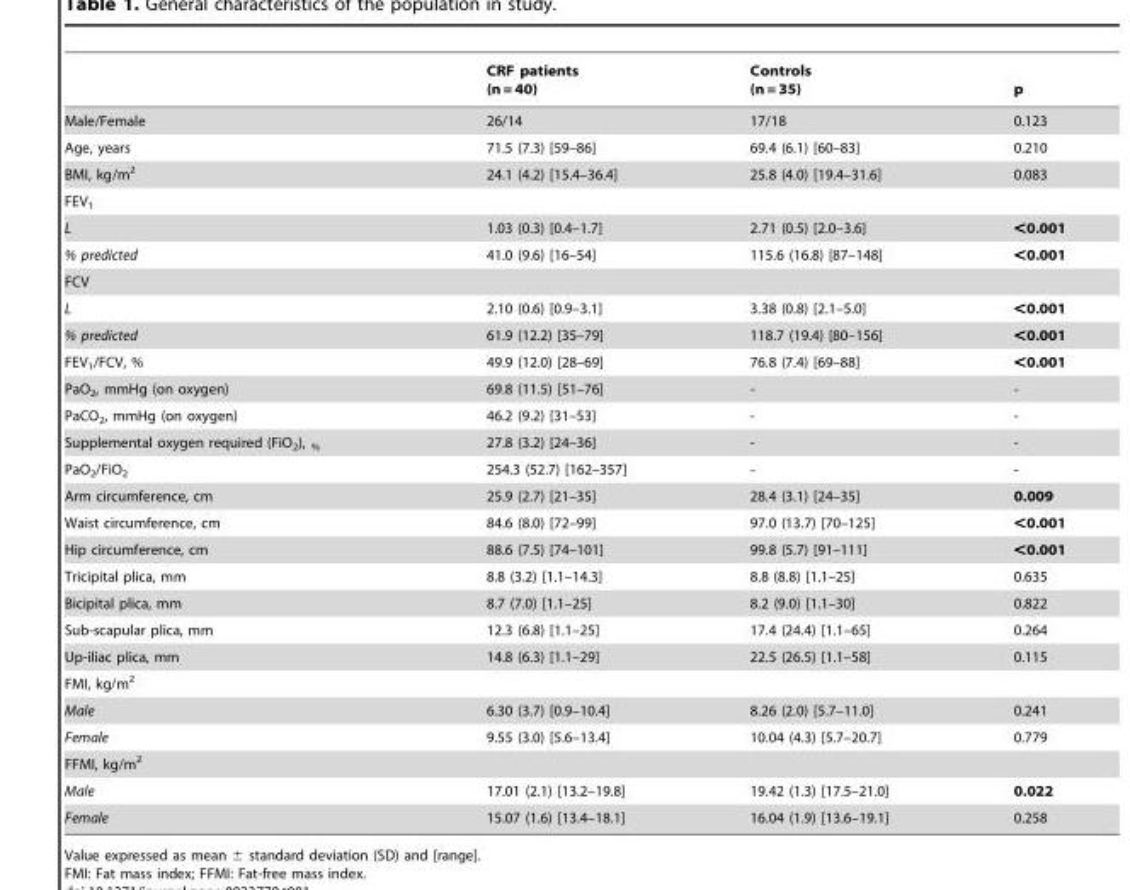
<table><thead><tr><td></td><td>CRF patients (n = 40)</td><td>Controls (n = 35)</td><td>p</td></tr></thead><tbody><tr><td>Male/Female</td><td>26/14</td><td>17/18</td><td>0.123</td></tr><tr><td>Age, years</td><td>71.5 (7.3) [59–86]</td><td>69.4 (6.1) [60–83]</td><td>0.210</td></tr><tr><td>BMI, kg/m<sup>2</sup></td><td>24.1 (4.2) [15.4–36.4]</td><td>25.8 (4.0) [19.4–31.6]</td><td>0.083</td></tr><tr><td colspan="4">FEV<sub>1</sub></td></tr><tr><td>L</td><td>1.03 (0.3) [0.4–1.7]</td><td>2.71 (0.5) [2.0–3.6]</td><td>&lt;0.001</td></tr><tr><td>% predicted</td><td>41.0 (9.6) [16–54]</td><td>115.6 (16.8) [87–148]</td><td>&lt;0.001</td></tr><tr><td colspan="4">FCV</td></tr><tr><td>L</td><td>2.10 (0.6) [0.9–3.1]</td><td>3.38 (0.8) [2.1–5.0]</td><td>&lt;0.001</td></tr><tr><td>% predicted</td><td>61.9 (12.2) [35–79]</td><td>118.7 (19.4) [80–156]</td><td>&lt;0.001</td></tr><tr><td>FEV<sub>1</sub>/FCV, %</td><td>49.9 (12.0) [28–69]</td><td>76.8 (7.4) [69–88]</td><td>&lt;0.001</td></tr><tr><td>PaO<sub>2</sub>, mmHg (on oxygen)</td><td>69.8 (11.5) [51–76]</td><td>-</td><td>-</td></tr><tr><td>PaCO<sub>2</sub>, mmHg (on oxygen)</td><td>46.2 (9.2) [31–53]</td><td>-</td><td>-</td></tr><tr><td>Supplemental oxygen required (FiO<sub>2</sub>), <sub>%</sub></td><td>27.8 (3.2) [24–36]</td><td>-</td><td>-</td></tr><tr><td>PaO<sub>2</sub>/FiO<sub>2</sub></td><td>254.3 (52.7) [162–357]</td><td>-</td><td>-</td></tr><tr><td>Arm circumference, cm</td><td>25.9 (2.7) [21–35]</td><td>28.4 (3.1) [24–35]</td><td>0.009</td></tr><tr><td>Waist circumference, cm</td><td>84.6 (8.0) [72–99]</td><td>97.0 (13.7) [70–125]</td><td>&lt;0.001</td></tr><tr><td>Hip circumference, cm</td><td>88.6 (7.5) [74–101]</td><td>99.8 (5.7) [91–111]</td><td>&lt;0.001</td></tr><tr><td>Tricipital plica, mm</td><td>8.8 (3.2) [1.1–14.3]</td><td>8.8 (8.8) [1.1–25]</td><td>0.635</td></tr><tr><td>Bicipital plica, mm</td><td>8.7 (7.0) [1.1–25]</td><td>8.2 (9.0) [1.1–30]</td><td>0.822</td></tr><tr><td>Sub-scapular plica, mm</td><td>12.3 (6.8) [1.1–25]</td><td>17.4 (24.4) [1.1–65]</td><td>0.264</td></tr><tr><td>Up-iliac plica, mm</td><td>14.8 (6.3) [1.1–29]</td><td>22.5 (26.5) [1.1–58]</td><td>0.115</td></tr><tr><td colspan="4">FMI, kg/m<sup>2</sup></td></tr><tr><td>Male</td><td>6.30 (3.7) [0.9–10.4]</td><td>8.26 (2.0) [5.7–11.0]</td><td>0.241</td></tr><tr><td>Female</td><td>9.55 (3.0) [5.6–13.4]</td><td>10.04 (4.3) [5.7–20.7]</td><td>0.779</td></tr><tr><td colspan="4">FFMI, kg/m<sup>2</sup></td></tr><tr><td>Male</td><td>17.01 (2.1) [13.2–19.8]</td><td>19.42 (1.3) [17.5–21.0]</td><td>0.022</td></tr><tr><td>Female</td><td>15.07 (1.6) [13.4–18.1]</td><td>16.04 (1.9) [13.6–19.1]</td><td>0.258</td></tr></tbody></table>